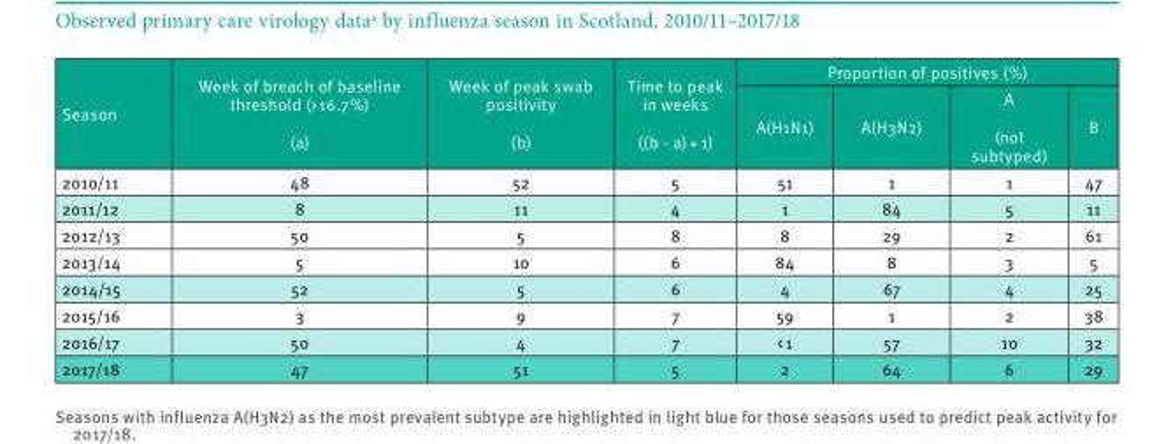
<table><thead><tr><td rowspan="2">Season</td><td rowspan="2">Week of breach of baseline threshold (&gt; 16.7%) (a)</td><td rowspan="2">Week of peak swab positivity (b)</td><td rowspan="2">Time to peak in weeks ((b - a) + 1)</td><td colspan="4">Proportion of positives (%)</td></tr><tr><td>A(H1N1)</td><td>A(H3N2)</td><td>A (not subtyped)</td><td>B</td></tr></thead><tbody><tr><td>2010/11</td><td>48</td><td>52</td><td>5</td><td>51</td><td>1</td><td>1</td><td>47</td></tr><tr><td>2011/12</td><td>8</td><td>11</td><td>4</td><td>1</td><td>84</td><td>5</td><td>11</td></tr><tr><td>2012/13</td><td>50</td><td>5</td><td>8</td><td>8</td><td>29</td><td>2</td><td>61</td></tr><tr><td>2013/14</td><td>5</td><td>10</td><td>6</td><td>84</td><td>8</td><td>3</td><td>5</td></tr><tr><td>2014/15</td><td>52</td><td>5</td><td>6</td><td>4</td><td>67</td><td>4</td><td>25</td></tr><tr><td>2015/16</td><td>3</td><td>9</td><td>7</td><td>59</td><td>1</td><td>2</td><td>38</td></tr><tr><td>2016/17</td><td>50</td><td>4</td><td>7</td><td>&lt; 1</td><td>57</td><td>10</td><td>32</td></tr><tr><td>2017/18</td><td>47</td><td>51</td><td>5</td><td>2</td><td>64</td><td>6</td><td>29</td></tr></tbody></table>